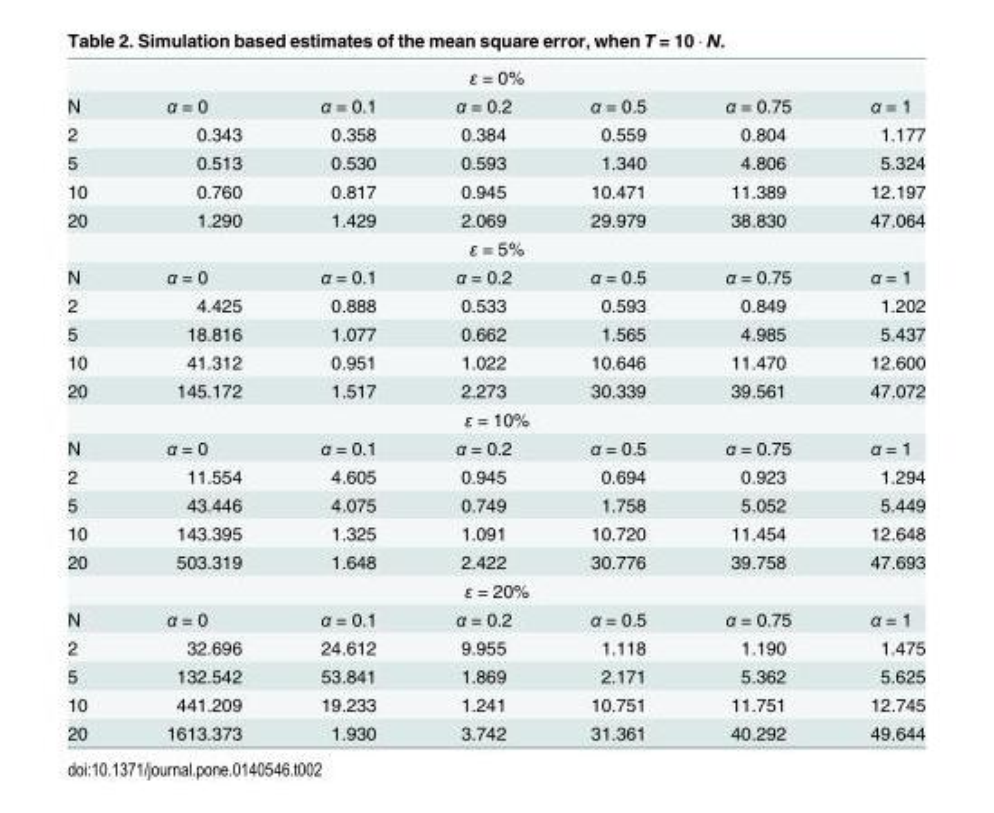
<table><tbody><tr><td colspan="7">ε = 0%</td></tr><tr><td>N</td><td>α = 0</td><td>α = 0.1</td><td>α = 0.2</td><td>α = 0.5</td><td>α = 0.75</td><td>α = 1</td></tr><tr><td>2</td><td>0.343</td><td>0.358</td><td>0.384</td><td>0.559</td><td>0.804</td><td>1.177</td></tr><tr><td>5</td><td>0.513</td><td>0.530</td><td>0.593</td><td>1.340</td><td>4.806</td><td>5.324</td></tr><tr><td>10</td><td>0.760</td><td>0.817</td><td>0.945</td><td>10.471</td><td>11.389</td><td>12.197</td></tr><tr><td>20</td><td>1.290</td><td>1.429</td><td>2.069</td><td>29.979</td><td>38.830</td><td>47.064</td></tr><tr><td colspan="7">ε = 5%</td></tr><tr><td>N</td><td>α = 0</td><td>α = 0.1</td><td>α = 0.2</td><td>α = 0.5</td><td>α = 0.75</td><td>α = 1</td></tr><tr><td>2</td><td>4.425</td><td>0.888</td><td>0.533</td><td>0.593</td><td>0.849</td><td>1.202</td></tr><tr><td>5</td><td>18.816</td><td>1.077</td><td>0.662</td><td>1.565</td><td>4.985</td><td>5.437</td></tr><tr><td>10</td><td>41.312</td><td>0.951</td><td>1.022</td><td>10.646</td><td>11.470</td><td>12.600</td></tr><tr><td>20</td><td>145.172</td><td>1.517</td><td>2.273</td><td>30.339</td><td>39.561</td><td>47.072</td></tr><tr><td colspan="7">ε = 10%</td></tr><tr><td>N</td><td>α = 0</td><td>α = 0.1</td><td>α = 0.2</td><td>α = 0.5</td><td>α = 0.75</td><td>α = 1</td></tr><tr><td>2</td><td>11.554</td><td>4.605</td><td>0.945</td><td>0.694</td><td>0.923</td><td>1.294</td></tr><tr><td>5</td><td>43.446</td><td>4.075</td><td>0.749</td><td>1.758</td><td>5.052</td><td>5.449</td></tr><tr><td>10</td><td>143.395</td><td>1.325</td><td>1.091</td><td>10.720</td><td>11.454</td><td>12.648</td></tr><tr><td>20</td><td>503.319</td><td>1.648</td><td>2.422</td><td>30.776</td><td>39.758</td><td>47.693</td></tr><tr><td colspan="7">ε = 20%</td></tr><tr><td>N</td><td>α = 0</td><td>α = 0.1</td><td>α = 0.2</td><td>α = 0.5</td><td>α = 0.75</td><td>α = 1</td></tr><tr><td>2</td><td>32.696</td><td>24.612</td><td>9.955</td><td>1.118</td><td>1.190</td><td>1.475</td></tr><tr><td>5</td><td>132.542</td><td>53.841</td><td>1.869</td><td>2.171</td><td>5.362</td><td>5.625</td></tr><tr><td>10</td><td>441.209</td><td>19.233</td><td>1.241</td><td>10.751</td><td>11.751</td><td>12.745</td></tr><tr><td>20</td><td>1613.373</td><td>1.930</td><td>3.742</td><td>31.361</td><td>40.292</td><td>49.644</td></tr></tbody></table>